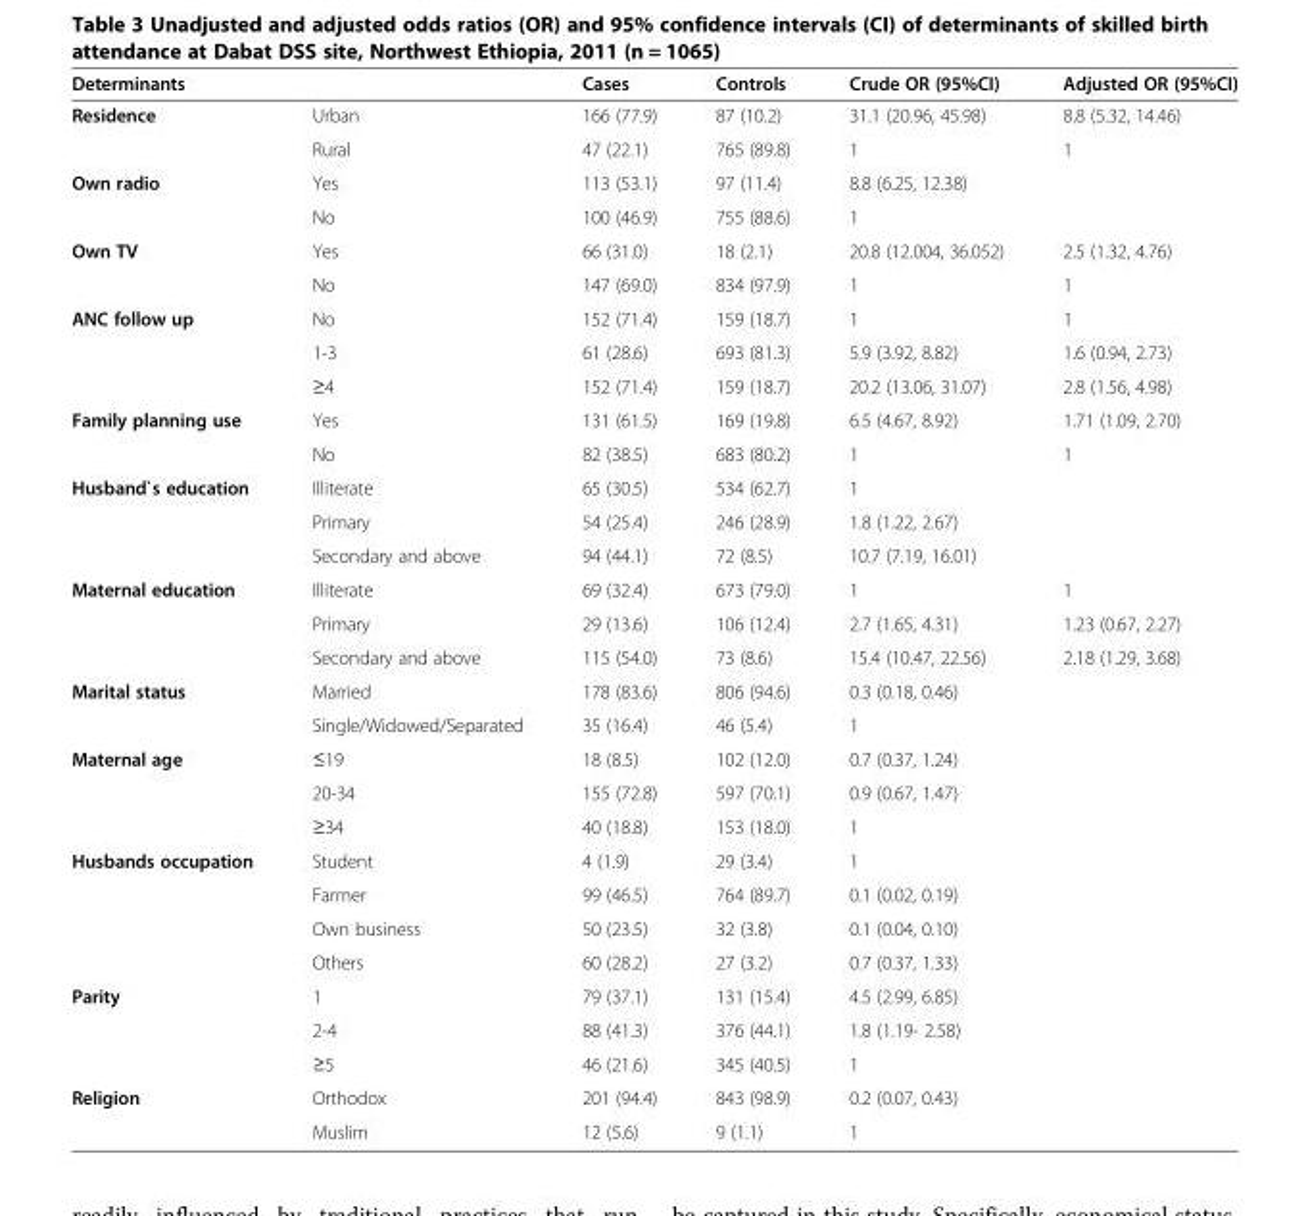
<table><thead><tr><td>Determinants</td><td></td><td>Cases</td><td>Controls</td><td>Crude OR (95%CI)</td><td>Adjusted OR (95%CI)</td></tr></thead><tbody><tr><td rowspan="2">Residence</td><td>Urban</td><td>166 (77.9)</td><td>87 (10.2)</td><td>31.1 (20.96, 45.98)</td><td>8.8 (5.32, 14.46)</td></tr><tr><td>Rural</td><td>47 (22.1)</td><td>765 (89.8)</td><td>1</td><td>1</td></tr><tr><td rowspan="2">Own radio</td><td>Yes</td><td>113 (53.1)</td><td>97 (11.4)</td><td>8.8 (6.25, 12.38)</td><td></td></tr><tr><td>No</td><td>100 (46.9)</td><td>755 (88.6)</td><td>1</td><td></td></tr><tr><td rowspan="2">Own TV</td><td>Yes</td><td>66 (31.0)</td><td>18 (2.1)</td><td>20.8 (12.004, 36.052)</td><td>2.5 (1.32, 4.76)</td></tr><tr><td>No</td><td>147 (69.0)</td><td>834 (97.9)</td><td>1</td><td>1</td></tr><tr><td rowspan="3">ANC follow up</td><td>No</td><td>152 (71.4)</td><td>159 (18.7)</td><td>1</td><td>1</td></tr><tr><td>1-3</td><td>61 (28.6)</td><td>693 (81.3)</td><td>5.9 (3.92, 8.82)</td><td>1.6 (0.94, 2.73)</td></tr><tr><td>≥4</td><td>152 (71.4)</td><td>159 (18.7)</td><td>20.2 (13.06, 31.07)</td><td>2.8 (1.56, 4.98)</td></tr><tr><td rowspan="2">Family planning use</td><td>Yes</td><td>131 (61.5)</td><td>169 (19.8)</td><td>6.5 (4.67, 8.92)</td><td>1.71 (1.09, 2.70)</td></tr><tr><td>No</td><td>82 (38.5)</td><td>683 (80.2)</td><td>1</td><td>1</td></tr><tr><td rowspan="3">Husband`s education</td><td>Illiterate</td><td>65 (30.5)</td><td>534 (62.7)</td><td>1</td><td></td></tr><tr><td>Primary</td><td>54 (25.4)</td><td>246 (28.9)</td><td>1.8 (1.22, 2.67)</td><td></td></tr><tr><td>Secondary and above</td><td>94 (44.1)</td><td>72 (8.5)</td><td>10.7 (7.19, 16.01)</td><td></td></tr><tr><td rowspan="3">Maternal education</td><td>Illiterate</td><td>69 (32.4)</td><td>673 (79.0)</td><td>1</td><td>1</td></tr><tr><td>Primary</td><td>29 (13.6)</td><td>106 (12.4)</td><td>2.7 (1.65, 4.31)</td><td>1.23 (0.67, 2.27)</td></tr><tr><td>Secondary and above</td><td>115 (54.0)</td><td>73 (8.6)</td><td>15.4 (10.47, 22.56)</td><td>2.18 (1.29, 3.68)</td></tr><tr><td rowspan="2">Marital status</td><td>Married</td><td>178 (83.6)</td><td>806 (94.6)</td><td>0.3 (0.18, 0.46)</td><td></td></tr><tr><td>Single/Widowed/Separated</td><td>35 (16.4)</td><td>46 (5.4)</td><td>1</td><td></td></tr><tr><td rowspan="3">Maternal age</td><td>≤19</td><td>18 (8.5)</td><td>102 (12.0)</td><td>0.7 (0.37, 1.24)</td><td></td></tr><tr><td>20-34</td><td>155 (72.8)</td><td>597 (70.1)</td><td>0.9 (0.67, 1.47)</td><td></td></tr><tr><td>≥34</td><td>40 (18.8)</td><td>153 (18.0)</td><td>1</td><td></td></tr><tr><td rowspan="4">Husbands occupation</td><td>Student</td><td>4 (1.9)</td><td>29 (3.4)</td><td>1</td><td></td></tr><tr><td>Farmer</td><td>99 (46.5)</td><td>764 (89.7)</td><td>0.1 (0.02, 0.19)</td><td></td></tr><tr><td>Own business</td><td>50 (23.5)</td><td>32 (3.8)</td><td>0.1 (0.04, 0.10)</td><td></td></tr><tr><td>Others</td><td>60 (28.2)</td><td>27 (3.2)</td><td>0.7 (0.37, 1.33)</td><td></td></tr><tr><td rowspan="3">Parity</td><td>1</td><td>79 (37.1)</td><td>131 (15.4)</td><td>4.5 (2.99, 6.85)</td><td></td></tr><tr><td>2-4</td><td>88 (41.3)</td><td>376 (44.1)</td><td>1.8 (1.19- 2.58)</td><td></td></tr><tr><td>≥5</td><td>46 (21.6)</td><td>345 (40.5)</td><td>1</td><td></td></tr><tr><td rowspan="2">Religion</td><td>Orthodox</td><td>201 (94.4)</td><td>843 (98.9)</td><td>0.2 (0.07, 0.43)</td><td></td></tr><tr><td>Muslim</td><td>12 (5.6)</td><td>9 (1.1)</td><td>1</td><td></td></tr></tbody></table>